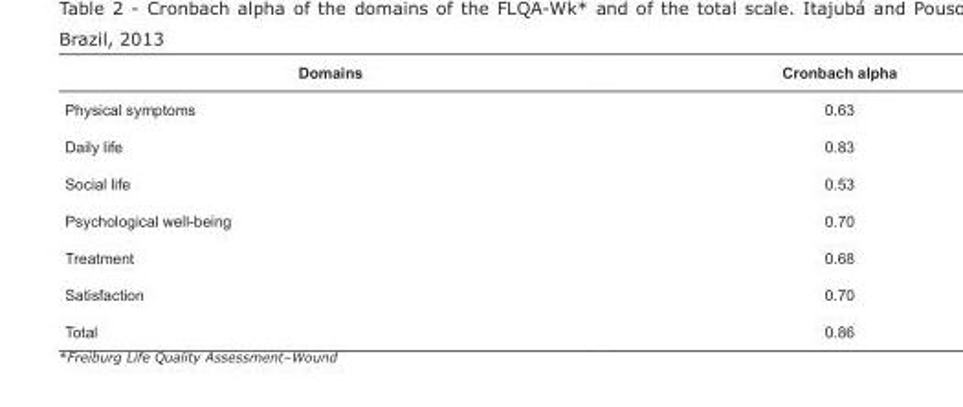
<table><thead><tr><td>Domains</td><td>Cronbach alpha</td></tr></thead><tbody><tr><td>Physical symptoms</td><td>0.63</td></tr><tr><td>Daily life</td><td>0.83</td></tr><tr><td>Social life</td><td>0.53</td></tr><tr><td>Psychological well-being</td><td>0.70</td></tr><tr><td>Treatment</td><td>0.68</td></tr><tr><td>Satisfaction</td><td>0.70</td></tr><tr><td>Total</td><td>0.86</td></tr></tbody></table>